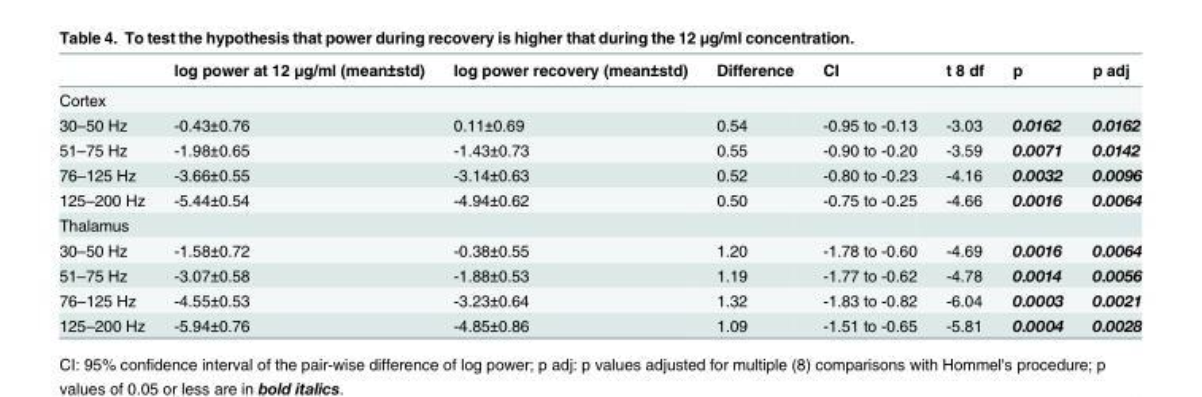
<table><thead><tr><td></td><td>log power at 12 μg/ml (mean±std)</td><td>log power recovery (mean±std)</td><td>Difference</td><td>CI</td><td>t 8 df</td><td>p</td><td>p adj</td></tr></thead><tbody><tr><td colspan="8">Cortex</td></tr><tr><td>30–50 Hz</td><td>-0.43±0.76</td><td>0.11±0.69</td><td>0.54</td><td>-0.95 to -0.13</td><td>-3.03</td><td>0.0162</td><td>0.0162</td></tr><tr><td>51–75 Hz</td><td>-1.98±0.65</td><td>-1.43±0.73</td><td>0.55</td><td>-0.90 to -0.20</td><td>-3.59</td><td>0.0071</td><td>0.0142</td></tr><tr><td>76–125 Hz</td><td>-3.66±0.55</td><td>-3.14±0.63</td><td>0.52</td><td>-0.80 to -0.23</td><td>-4.16</td><td>0.0032</td><td>0.0096</td></tr><tr><td>125–200 Hz</td><td>-5.44±0.54</td><td>-4.94±0.62</td><td>0.50</td><td>-0.75 to -0.25</td><td>-4.66</td><td>0.0016</td><td>0.0064</td></tr><tr><td colspan="8">Thalamus</td></tr><tr><td>30–50 Hz</td><td>-1.58±0.72</td><td>-0.38±0.55</td><td>1.20</td><td>-1.78 to -0.60</td><td>-4.69</td><td>0.0016</td><td>0.0064</td></tr><tr><td>51–75 Hz</td><td>-3.07±0.58</td><td>-1.88±0.53</td><td>1.19</td><td>-1.77 to -0.62</td><td>-4.78</td><td>0.0014</td><td>0.0056</td></tr><tr><td>76–125 Hz</td><td>-4.55±0.53</td><td>-3.23±0.64</td><td>1.32</td><td>-1.83 to -0.82</td><td>-6.04</td><td>0.0003</td><td>0.0021</td></tr><tr><td>125–200 Hz</td><td>-5.94±0.76</td><td>-4.85±0.86</td><td>1.09</td><td>-1.51 to -0.65</td><td>-5.81</td><td>0.0004</td><td>0.0028</td></tr></tbody></table>